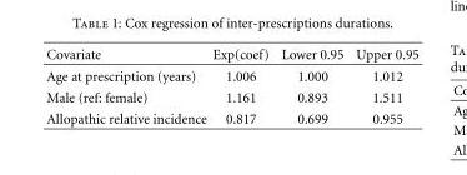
<table><thead><tr><td>Covariate</td><td>Exp(coef)</td><td>Lower 0.95</td><td>Upper 0.95</td></tr></thead><tbody><tr><td>Age at prescription (years)</td><td>1.006</td><td>1.000</td><td>1.012</td></tr><tr><td>Male (ref: female)</td><td>1.161</td><td>0.893</td><td>1.511</td></tr><tr><td>Allopathic relative incidence</td><td>0.817</td><td>0.699</td><td>0.955</td></tr></tbody></table>